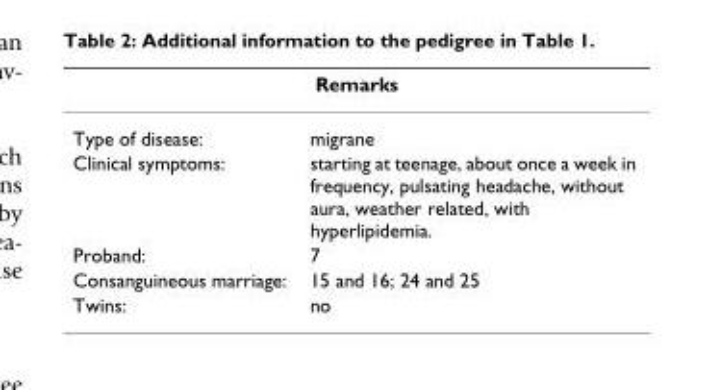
<table><thead><tr><td colspan="2">Remarks</td></tr><tr><td>Type of disease:</td><td>migrane</td></tr></thead><tbody><tr><td>Clinical symptoms:</td><td>starting at teenage, about once a week in frequency, pulsating headache, without aura, weather related, with hyperlipidemia.</td></tr><tr><td>Proband:</td><td>7</td></tr><tr><td>Consanguineous marriage:</td><td>15 and 16; 24 and 25</td></tr><tr><td>Twins:</td><td>no</td></tr></tbody></table>